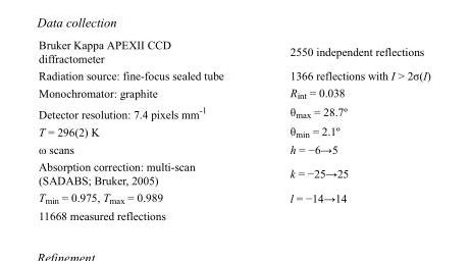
<table><tbody><tr><td>Bruker Kappa APEXII CCD diffractometer</td><td>2550 independent reflections</td></tr><tr><td>Radiation source: fine-focus sealed tube</td><td>1366 reflections with I &gt; 2σ(I)</td></tr><tr><td>Monochromator: graphite</td><td>R<sub>int</sub> = 0.038</td></tr><tr><td>Detector resolution: 7.4 pixels mm<sup>-1</sup></td><td>θ<sub>max</sub> = 28.7º</td></tr><tr><td>T = 296(2) K</td><td>θ<sub>min</sub> = 2.1º</td></tr><tr><td>ω scans</td><td>h = −6→5</td></tr><tr><td>Absorption correction: multi-scan (SADABS; Bruker, 2005)</td><td>k = −25→25</td></tr><tr><td>T<sub>min</sub> = 0.975, T<sub>max</sub> = 0.989</td><td>l = −14→14</td></tr><tr><td>11668 measured reflections</td><td></td></tr></tbody></table>